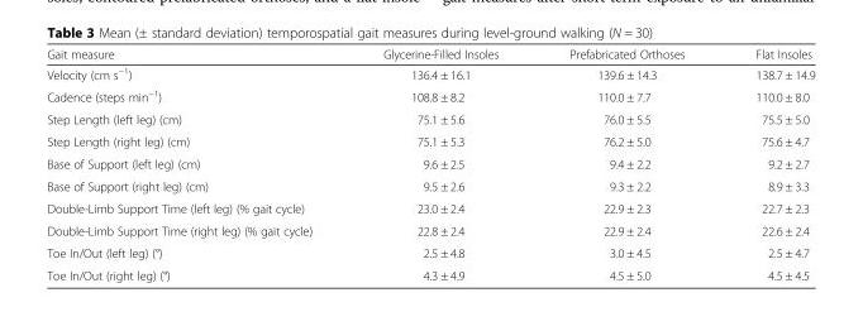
<table><thead><tr><td>Gait measure</td><td>Glycerine-Filled Insoles</td><td>Prefabricated Orthoses</td><td>Flat Insoles</td></tr></thead><tbody><tr><td>Velocity (cm s<sup>−1</sup>)</td><td>136.4 ± 16.1</td><td>139.6 ± 14.3</td><td>138.7 ± 14.9</td></tr><tr><td>Cadence (steps min<sup>−1</sup>)</td><td>108.8 ± 8.2</td><td>110.0 ± 7.7</td><td>110.0 ± 8.0</td></tr><tr><td>Step Length (left leg) (cm)</td><td>75.1 ± 5.6</td><td>76.0 ± 5.5</td><td>75.5 ± 5.0</td></tr><tr><td>Step Length (right leg) (cm)</td><td>75.1 ± 5.3</td><td>76.2 ± 5.0</td><td>75.6 ± 4.7</td></tr><tr><td>Base of Support (left leg) (cm)</td><td>9.6 ± 2.5</td><td>9.4 ± 2.2</td><td>9.2 ± 2.7</td></tr><tr><td>Base of Support (right leg) (cm)</td><td>9.5 ± 2.6</td><td>9.3 ± 2.2</td><td>8.9 ± 3.3</td></tr><tr><td>Double-Limb Support Time (left leg) (% gait cycle)</td><td>23.0 ± 2.4</td><td>22.9 ± 2.3</td><td>22.7 ± 2.3</td></tr><tr><td>Double-Limb Support Time (right leg) (% gait cycle)</td><td>22.8 ± 2.4</td><td>22.9 ± 2.4</td><td>22.6 ± 2.4</td></tr><tr><td>Toe In/Out (left leg) (°)</td><td>2.5 ± 4.8</td><td>3.0 ± 4.5</td><td>2.5 ± 4.7</td></tr><tr><td>Toe In/Out (right leg) (°)</td><td>4.3 ± 4.9</td><td>4.5 ± 5.0</td><td>4.5 ± 4.5</td></tr></tbody></table>